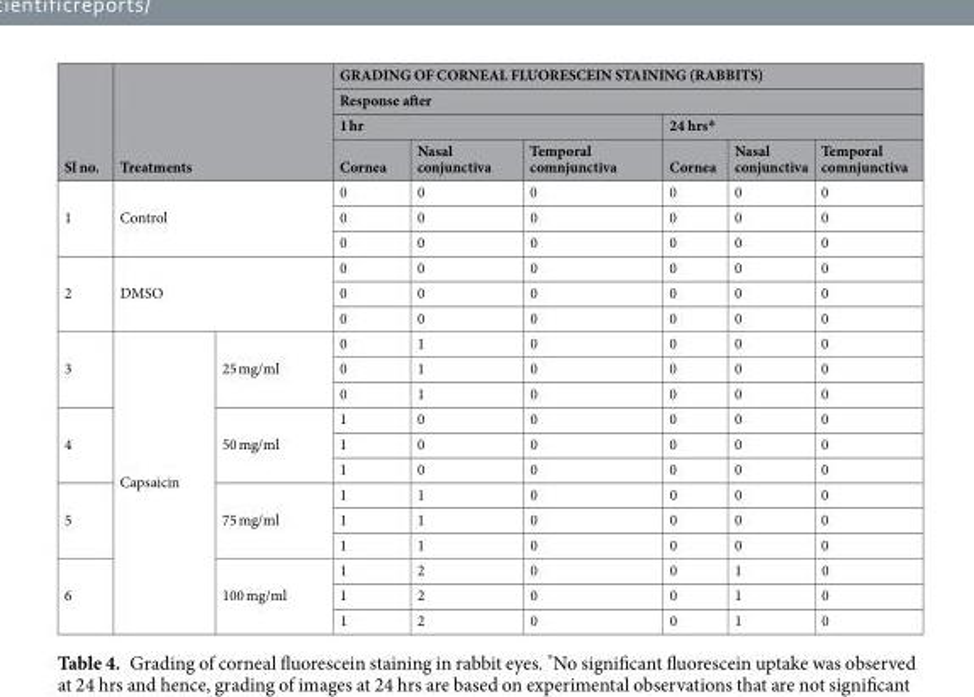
<table><thead><tr><td rowspan="4">Sl no.</td><td rowspan="4" colspan="2">Treatments</td><td rowspan="2" colspan="6">GRADING OF CORNEAL FLUORESCEIN STAINING (RABBITS) Response after</td></tr><tr></tr><tr><td colspan="3">1 hr</td><td colspan="3">24 hrs*</td></tr><tr><td>Cornea</td><td>Nasal conjunctiva</td><td>Temporal comnjunctiva</td><td>Cornea</td><td>Nasal conjunctiva</td><td>Temporal comnjunctiva</td></tr></thead><tbody><tr><td rowspan="3">1</td><td rowspan="3" colspan="2">Control</td><td>0</td><td>0</td><td>0</td><td>0</td><td>0</td><td>0</td></tr><tr><td>0</td><td>0</td><td>0</td><td>0</td><td>0</td><td>0</td></tr><tr><td>0</td><td>0</td><td>0</td><td>0</td><td>0</td><td>0</td></tr><tr><td rowspan="3">2</td><td rowspan="3" colspan="2">DMSO</td><td>0</td><td>0</td><td>0</td><td>0</td><td>0</td><td>0</td></tr><tr><td>0</td><td>0</td><td>0</td><td>0</td><td>0</td><td>0</td></tr><tr><td>0</td><td>0</td><td>0</td><td>0</td><td>0</td><td>0</td></tr><tr><td rowspan="3">3</td><td rowspan="12">Capsaicin</td><td rowspan="3">25 mg/ml</td><td>0</td><td>1</td><td>0</td><td>0</td><td>0</td><td>0</td></tr><tr><td>0</td><td>1</td><td>0</td><td>0</td><td>0</td><td>0</td></tr><tr><td>0</td><td>1</td><td>0</td><td>0</td><td>0</td><td>0</td></tr><tr><td rowspan="3">4</td><td rowspan="3">50 mg/ml</td><td>1</td><td>0</td><td>0</td><td>0</td><td>0</td><td>0</td></tr><tr><td>1</td><td>0</td><td>0</td><td>0</td><td>0</td><td>0</td></tr><tr><td>1</td><td>0</td><td>0</td><td>0</td><td>0</td><td>0</td></tr><tr><td rowspan="3">5</td><td rowspan="3">75 mg/ml</td><td>1</td><td>1</td><td>0</td><td>0</td><td>0</td><td>0</td></tr><tr><td>1</td><td>1</td><td>0</td><td>0</td><td>0</td><td>0</td></tr><tr><td>1</td><td>1</td><td>0</td><td>0</td><td>0</td><td>0</td></tr><tr><td rowspan="3">6</td><td rowspan="3">100 mg/ml</td><td>1</td><td>2</td><td>0</td><td>0</td><td>1</td><td>0</td></tr><tr><td>1</td><td>2</td><td>0</td><td>0</td><td>1</td><td>0</td></tr><tr><td>1</td><td>2</td><td>0</td><td>0</td><td>1</td><td>0</td></tr></tbody></table>